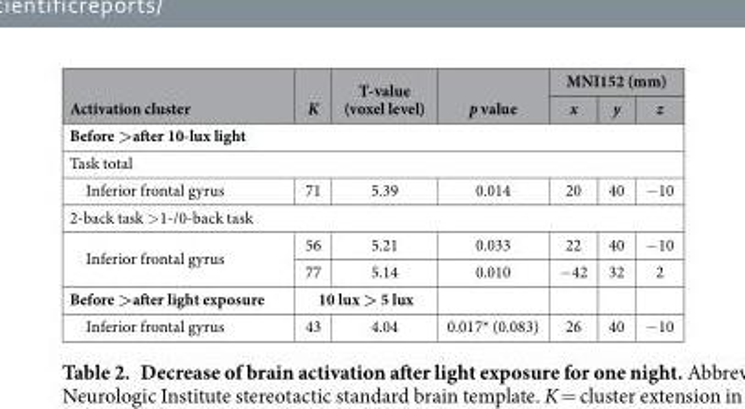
<table><thead><tr><td rowspan="2">Activation cluster</td><td rowspan="2">K</td><td rowspan="2">T-value (voxel level)</td><td rowspan="2">p value</td><td colspan="3">MNI152 (mm)</td></tr><tr><td>x</td><td>y</td><td>z</td></tr></thead><tbody><tr><td colspan="7">Before &gt;after 10-lux light</td></tr><tr><td colspan="7">Task total</td></tr><tr><td>Inferior frontal gyrus</td><td>71</td><td>5.39</td><td>0.014</td><td>20</td><td>40</td><td>− 10</td></tr><tr><td colspan="7">2-back task &gt; 1-/0-back task</td></tr><tr><td rowspan="2">Inferior frontal gyrus</td><td>56</td><td>5.21</td><td>0.033</td><td>22</td><td>40</td><td>− 10</td></tr><tr><td>77</td><td>5.14</td><td>0.010</td><td>− 42</td><td>32</td><td>2</td></tr><tr><td>Before &gt;after light exposure</td><td colspan="2">10 lux &gt; 5 lux</td><td></td><td></td><td></td><td></td></tr><tr><td>Inferior frontal gyrus</td><td>43</td><td>4.04</td><td>0.017* (0.083)</td><td>26</td><td>40</td><td>− 10</td></tr></tbody></table>